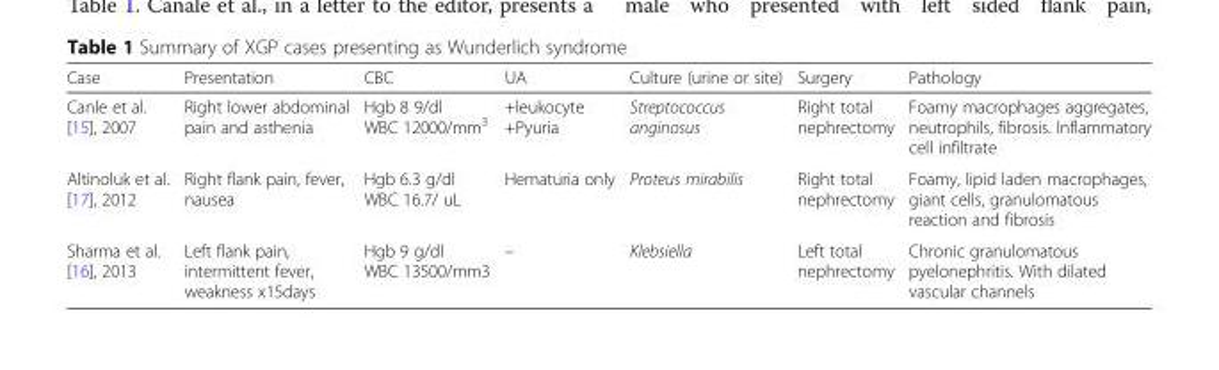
<table><thead><tr><td>Case</td><td>Presentation</td><td>CBC</td><td>UA</td><td>Culture (urine or site)</td><td>Surgery</td><td>Pathology</td></tr></thead><tbody><tr><td>Canle et al. [15], 2007</td><td>Right lower abdominal pain and asthenia</td><td>Hgb 8 9/dl WBC 12000/mm<sup>3</sup></td><td>+leukocyte +Pyuria</td><td>Streptococcus anginosus</td><td>Right total nephrectomy</td><td>Foamy macrophages aggregates, neutrophils, fibrosis. Inflammatory cell infiltrate</td></tr><tr><td>Altinoluk et al. [17], 2012</td><td>Right flank pain, fever, nausea</td><td>Hgb 6.3 g/dl WBC 16.7/ uL</td><td>Hematuria only</td><td>Proteus mirabilis</td><td>Right total nephrectomy</td><td>Foamy, lipid laden macrophages, giant cells, granulomatous reaction and fibrosis</td></tr><tr><td>Sharma et al. [16], 2013</td><td>Left flank pain, intermittent fever, weakness x15days</td><td>Hgb 9 g/dl WBC 13500/mm3</td><td>–</td><td>Klebsiella</td><td>Left total nephrectomy</td><td>Chronic granulomatous pyelonephritis. With dilated vascular channels</td></tr></tbody></table>